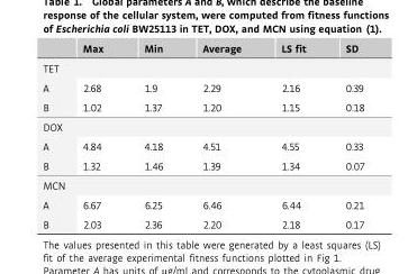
<table><thead><tr><td></td><td>Max</td><td>Min</td><td>Average</td><td>LS fit</td><td>SD</td></tr></thead><tbody><tr><td colspan="6">TET</td></tr><tr><td>A</td><td>2.68</td><td>1.9</td><td>2.29</td><td>2.16</td><td>0.39</td></tr><tr><td>B</td><td>1.02</td><td>1.37</td><td>1.20</td><td>1.15</td><td>0.18</td></tr><tr><td colspan="6">DOX</td></tr><tr><td>A</td><td>4.84</td><td>4.18</td><td>4.51</td><td>4.55</td><td>0.33</td></tr><tr><td>B</td><td>1.32</td><td>1.46</td><td>1.39</td><td>1.34</td><td>0.07</td></tr><tr><td colspan="6">MCN</td></tr><tr><td>A</td><td>6.67</td><td>6.25</td><td>6.46</td><td>6.44</td><td>0.21</td></tr><tr><td>B</td><td>2.03</td><td>2.36</td><td>2.20</td><td>2.18</td><td>0.17</td></tr></tbody></table>